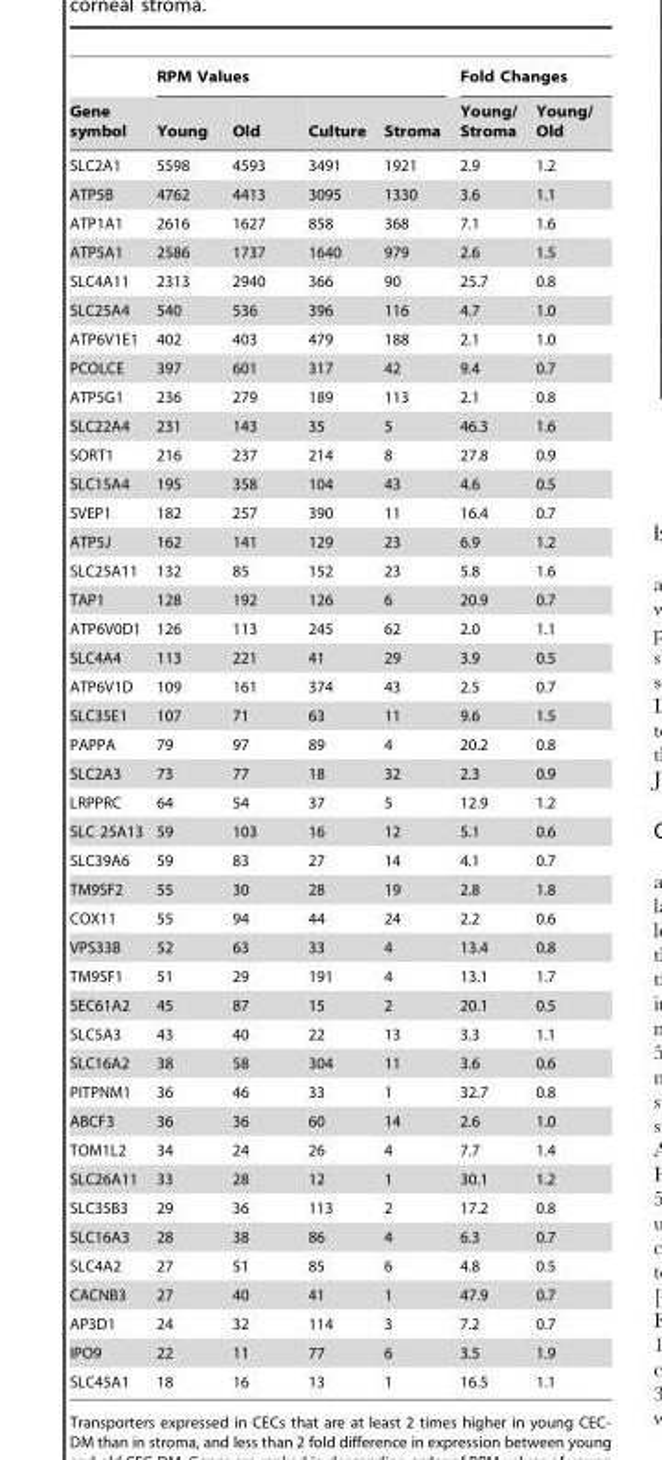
<table><thead><tr><td rowspan="2">Gene symbol</td><td colspan="4">RPM Values</td><td colspan="2">Fold Changes</td></tr><tr><td>Young</td><td>Old</td><td>Culture</td><td>Stroma</td><td>Young/ Stroma</td><td>Young/ Old</td></tr></thead><tbody><tr><td>SLC2A1</td><td>5598</td><td>4593</td><td>3491</td><td>1921</td><td>2.9</td><td>1.2</td></tr><tr><td>ATP5B</td><td>4762</td><td>4413</td><td>3095</td><td>1330</td><td>3.6</td><td>1.1</td></tr><tr><td>ATP1A1</td><td>2616</td><td>1627</td><td>858</td><td>368</td><td>7.1</td><td>1.6</td></tr><tr><td>ATP5A1</td><td>2586</td><td>1737</td><td>1640</td><td>979</td><td>2.6</td><td>1.5</td></tr><tr><td>SLC4A11</td><td>2313</td><td>2940</td><td>366</td><td>90</td><td>25.7</td><td>0.8</td></tr><tr><td>SLC25A4</td><td>540</td><td>536</td><td>396</td><td>116</td><td>4.7</td><td>1.0</td></tr><tr><td>ATP6V1E1</td><td>402</td><td>403</td><td>479</td><td>188</td><td>2.1</td><td>1.0</td></tr><tr><td>PCOLCE</td><td>397</td><td>601</td><td>317</td><td>42</td><td>9.4</td><td>0.7</td></tr><tr><td>ATP5G1</td><td>236</td><td>279</td><td>189</td><td>113</td><td>2.1</td><td>0.8</td></tr><tr><td>SLC22A4</td><td>231</td><td>143</td><td>35</td><td>5</td><td>46.3</td><td>1.6</td></tr><tr><td>SORT1</td><td>216</td><td>237</td><td>214</td><td>8</td><td>27.8</td><td>0.9</td></tr><tr><td>SLC15A4</td><td>195</td><td>358</td><td>104</td><td>43</td><td>4.6</td><td>0.5</td></tr><tr><td>SVEP1</td><td>182</td><td>257</td><td>390</td><td>11</td><td>16.4</td><td>0.7</td></tr><tr><td>ATP5J</td><td>162</td><td>141</td><td>129</td><td>23</td><td>6.9</td><td>1.2</td></tr><tr><td>SLC25A11</td><td>132</td><td>85</td><td>152</td><td>23</td><td>5.8</td><td>1.6</td></tr><tr><td>TAP1</td><td>128</td><td>192</td><td>126</td><td>6</td><td>20.9</td><td>0.7</td></tr><tr><td>ATP6V0D1</td><td>126</td><td>113</td><td>245</td><td>62</td><td>2.0</td><td>1.1</td></tr><tr><td>SLC4A4</td><td>113</td><td>221</td><td>41</td><td>29</td><td>3.9</td><td>0.5</td></tr><tr><td>ATP6V1D</td><td>109</td><td>161</td><td>374</td><td>43</td><td>2.5</td><td>0.7</td></tr><tr><td>SLC35E1</td><td>107</td><td>71</td><td>63</td><td>11</td><td>9.6</td><td>1.5</td></tr><tr><td>PAPPA</td><td>79</td><td>97</td><td>89</td><td>4</td><td>20.2</td><td>0.8</td></tr><tr><td>SLC2A3</td><td>73</td><td>77</td><td>18</td><td>32</td><td>2.3</td><td>0.9</td></tr><tr><td>LRPPRC</td><td>64</td><td>54</td><td>37</td><td>5</td><td>12.9</td><td>1.2</td></tr><tr><td>SLC 25A13</td><td>59</td><td>103</td><td>16</td><td>12</td><td>5.1</td><td>0.6</td></tr><tr><td>SLC39A6</td><td>59</td><td>83</td><td>27</td><td>14</td><td>4.1</td><td>0.7</td></tr><tr><td>TM9SF2</td><td>55</td><td>30</td><td>28</td><td>19</td><td>2.8</td><td>1.8</td></tr><tr><td>COX11</td><td>55</td><td>94</td><td>44</td><td>24</td><td>2.2</td><td>0.6</td></tr><tr><td>VPS33B</td><td>52</td><td>63</td><td>33</td><td>4</td><td>13.4</td><td>0.8</td></tr><tr><td>TM9SF1</td><td>51</td><td>29</td><td>191</td><td>4</td><td>13.1</td><td>1.7</td></tr><tr><td>SEC61A2</td><td>45</td><td>87</td><td>15</td><td>2</td><td>20.1</td><td>0.5</td></tr><tr><td>SLC5A3</td><td>43</td><td>40</td><td>22</td><td>13</td><td>3.3</td><td>1.1</td></tr><tr><td>SLC16A2</td><td>38</td><td>58</td><td>304</td><td>11</td><td>3.6</td><td>0.6</td></tr><tr><td>PITPNM1</td><td>36</td><td>46</td><td>33</td><td>1</td><td>32.7</td><td>0.8</td></tr><tr><td>ABCF3</td><td>36</td><td>36</td><td>60</td><td>14</td><td>2.6</td><td>1.0</td></tr><tr><td>TOM1L2</td><td>34</td><td>24</td><td>26</td><td>4</td><td>7.7</td><td>1.4</td></tr><tr><td>SLC26A11</td><td>33</td><td>28</td><td>12</td><td>1</td><td>30.1</td><td>1.2</td></tr><tr><td>SLC35B3</td><td>29</td><td>36</td><td>113</td><td>2</td><td>17.2</td><td>0.8</td></tr><tr><td>SLC16A3</td><td>28</td><td>38</td><td>86</td><td>4</td><td>6.3</td><td>0.7</td></tr><tr><td>SLC4A2</td><td>27</td><td>51</td><td>85</td><td>6</td><td>4.8</td><td>0.5</td></tr><tr><td>CACNB3</td><td>27</td><td>40</td><td>41</td><td>1</td><td>47.9</td><td>0.7</td></tr><tr><td>AP3D1</td><td>24</td><td>32</td><td>114</td><td>3</td><td>7.2</td><td>0.7</td></tr><tr><td>IPO9</td><td>22</td><td>11</td><td>77</td><td>6</td><td>3.5</td><td>1.9</td></tr><tr><td>SLC45A1</td><td>18</td><td>16</td><td>13</td><td>1</td><td>16.5</td><td>1.1</td></tr></tbody></table>